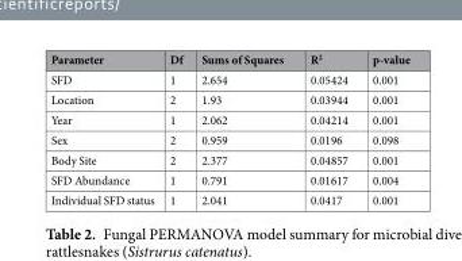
<table><thead><tr><td>Parameter</td><td>Df</td><td>Sums of Squares</td><td>R<sup>2</sup></td><td>p-value</td></tr></thead><tbody><tr><td>SFD</td><td>1</td><td>2.654</td><td>0.05424</td><td>0.001</td></tr><tr><td>Location</td><td>2</td><td>1.93</td><td>0.03944</td><td>0.001</td></tr><tr><td>Year</td><td>1</td><td>2.062</td><td>0.04214</td><td>0.001</td></tr><tr><td>Sex</td><td>2</td><td>0.959</td><td>0.0196</td><td>0.098</td></tr><tr><td>Body Site</td><td>2</td><td>2.377</td><td>0.04857</td><td>0.001</td></tr><tr><td>SFD Abundance</td><td>1</td><td>0.791</td><td>0.01617</td><td>0.004</td></tr><tr><td>Individual SFD status</td><td>1</td><td>2.041</td><td>0.0417</td><td>0.001</td></tr></tbody></table>